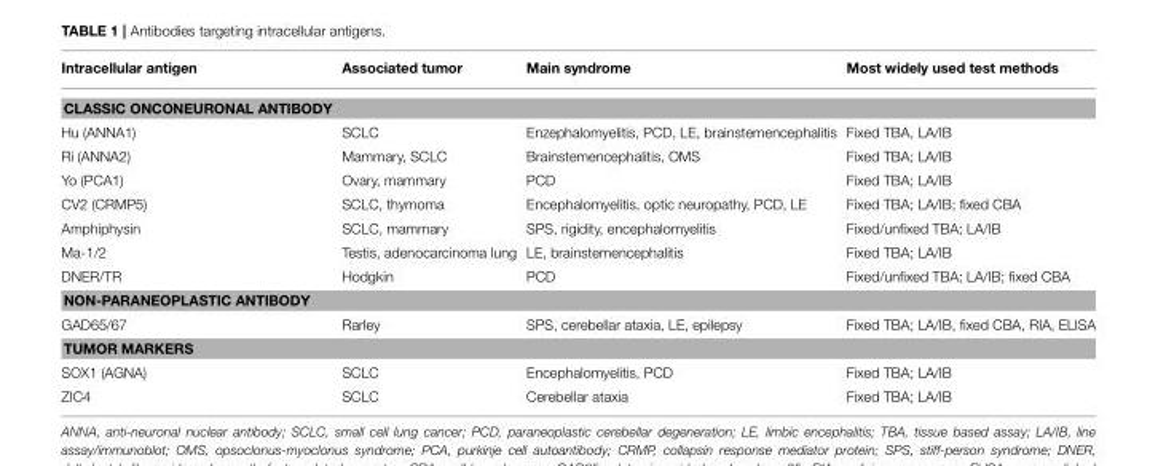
<table><thead><tr><td>Intracellular antigen</td><td>Associated tumor</td><td>Main syndrome</td><td>Most widely used test methods</td></tr></thead><tbody><tr><td colspan="4">CLASSIC ONCONEURONAL ANTIBODY</td></tr><tr><td>Hu (ANNA1)</td><td>SCLC</td><td>Enzephalomyelitis, PCD, LE, brainstemencephalitis</td><td>Fixed TBA, LA/IB</td></tr><tr><td>Ri (ANNA2)</td><td>Mammary, SCLC</td><td>Brainstemencephalitis, OMS</td><td>Fixed TBA; LA/IB</td></tr><tr><td>Yo (PCA1)</td><td>Ovary, mammary</td><td>PCD</td><td>Fixed TBA; LA/IB</td></tr><tr><td>CV2 (CRMP5)</td><td>SCLC, thymoma</td><td>Encephalomyelitis, optic neuropathy, PCD, LE</td><td>Fixed TBA; LA/IB; fixed CBA</td></tr><tr><td>Amphiphysin</td><td>SCLC, mammary</td><td>SPS, rigidity, encephalomyelitis</td><td>Fixed/unfixed TBA; LA/IB</td></tr><tr><td>Ma-1/2</td><td>Testis, adenocarcinoma lung</td><td>LE, brainstemencephalitis</td><td>Fixed TBA; LA/IB</td></tr><tr><td>DNER/TR</td><td>Hodgkin</td><td>PCD</td><td>Fixed/unfixed TBA; LA/IB; fixed CBA</td></tr><tr><td colspan="4">NON-PARANEOPLASTIC ANTIBODY</td></tr><tr><td>GAD65/67</td><td>Rarley</td><td>SPS, cerebellar ataxia, LE, epilepsy</td><td>Fixed TBA; LA/IB, fixed CBA, RIA, ELISA</td></tr><tr><td colspan="4">TUMOR MARKERS</td></tr><tr><td>SOX1 (AGNA)</td><td>SCLC</td><td>Encephalomyelitis, PCD</td><td>Fixed TBA; LA/IB</td></tr><tr><td>ZIC4</td><td>SCLC</td><td>Cerebellar ataxia</td><td>Fixed TBA; LA/IB</td></tr></tbody></table>